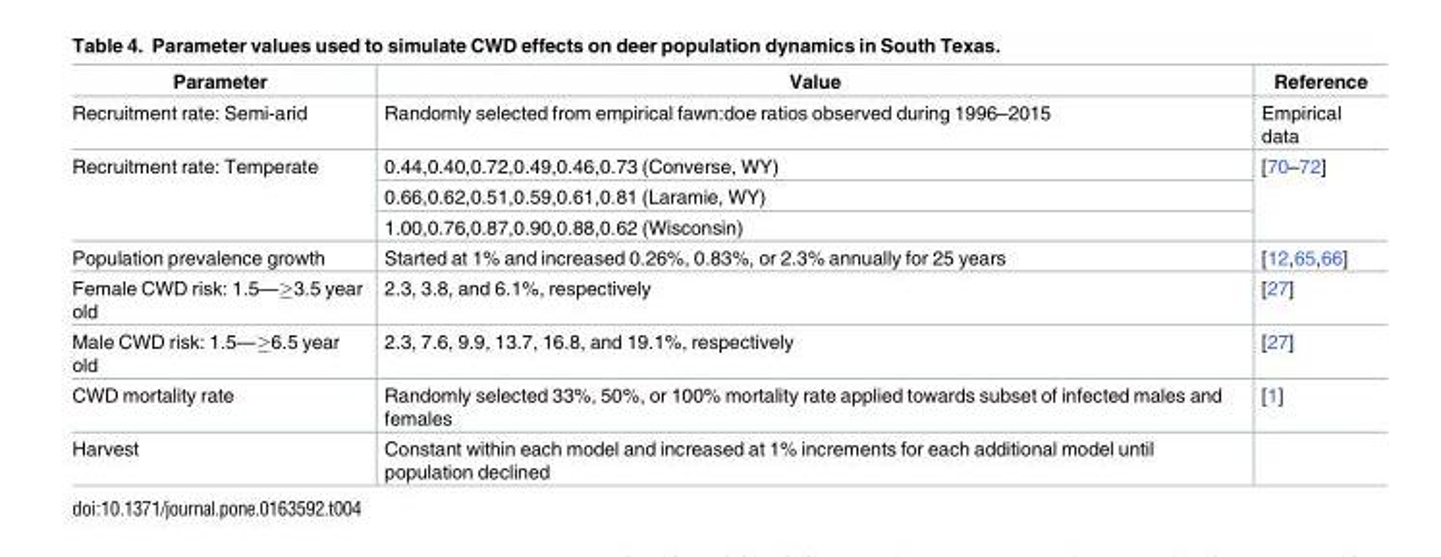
<table><thead><tr><td>Parameter</td><td>Value</td><td>Reference</td></tr></thead><tbody><tr><td>Recruitment rate: Semi-arid</td><td>Randomly selected from empirical fawn:doe ratios observed during 1996–2015</td><td>Empirical data</td></tr><tr><td rowspan="3">Recruitment rate: Temperate</td><td>0.44,0.40,0.72,0.49,0.46,0.73 (Converse, WY)</td><td rowspan="3">[70–72]</td></tr><tr><td>0.66,0.62,0.51,0.59,0.61,0.81 (Laramie, WY)</td></tr><tr><td>1.00,0.76,0.87,0.90,0.88,0.62 (Wisconsin)</td></tr><tr><td>Population prevalence growth</td><td>Started at 1% and increased 0.26%, 0.83%, or 2.3% annually for 25 years</td><td>[12,65,66]</td></tr><tr><td>Female CWD risk: 1.5—≥3.5 year old</td><td>2.3, 3.8, and 6.1%, respectively</td><td>[27]</td></tr><tr><td>Male CWD risk: 1.5—≥6.5 year old</td><td>2.3, 7.6, 9.9, 13.7, 16.8, and 19.1%, respectively</td><td>[27]</td></tr><tr><td>CWD mortality rate</td><td>Randomly selected 33%, 50%, or 100% mortality rate applied towards subset of infected males and females</td><td>[1]</td></tr><tr><td>Harvest</td><td>Constant within each model and increased at 1% increments for each additional model until population declined</td><td></td></tr></tbody></table>